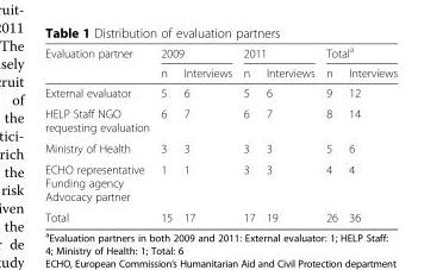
<table><thead><tr><td rowspan="2">Evaluation partner</td><td colspan="2">2009</td><td colspan="2">2011</td><td colspan="2">Total<sup>a</sup></td></tr><tr><td>n</td><td>Interviews</td><td>n</td><td>Interviews</td><td>n</td><td>Interviews</td></tr></thead><tbody><tr><td>External evaluator</td><td>5</td><td>6</td><td>5</td><td>6</td><td>9</td><td>12</td></tr><tr><td>HELP Staff NGO requesting evaluation</td><td>6</td><td>7</td><td>6</td><td>7</td><td>8</td><td>14</td></tr><tr><td>Ministry of Health</td><td>3</td><td>3</td><td>3</td><td>3</td><td>5</td><td>6</td></tr><tr><td>ECHO representative Funding agency Advocacy partner</td><td>1</td><td>1</td><td>3</td><td>3</td><td>4</td><td>4</td></tr><tr><td>Total</td><td>15</td><td>17</td><td>17</td><td>19</td><td>26</td><td>36</td></tr></tbody></table>